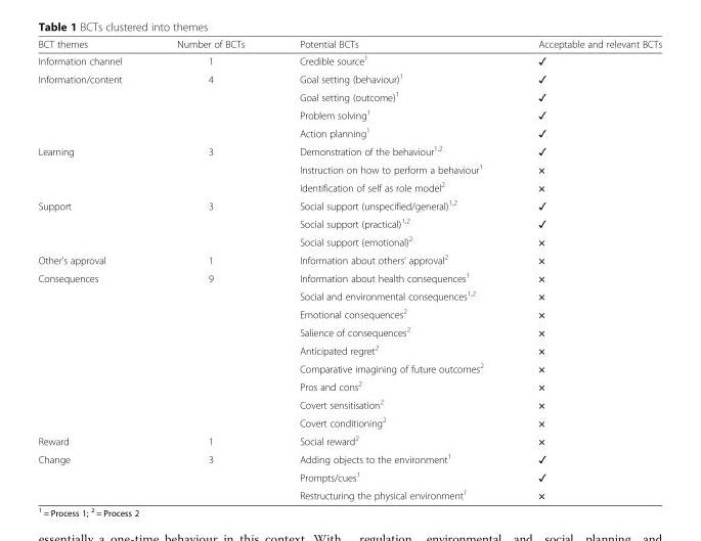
<table><thead><tr><td>BCT themes</td><td>Number of BCTs</td><td>Potential BCTs</td><td>Acceptable and relevant BCTs</td></tr></thead><tbody><tr><td>Information channel</td><td>1</td><td>Credible source<sup>1</sup></td><td>✓</td></tr><tr><td rowspan="4">Information/content</td><td rowspan="4">4</td><td>Goal setting (behaviour)<sup>1</sup></td><td>✓</td></tr><tr><td>Goal setting (outcome)<sup>1</sup></td><td>✓</td></tr><tr><td>Problem solving<sup>1</sup></td><td>✓</td></tr><tr><td>Action planning<sup>1</sup></td><td>✓</td></tr><tr><td rowspan="3">Learning</td><td rowspan="3">3</td><td>Demonstration of the behaviour<sup>1,2</sup></td><td>✓</td></tr><tr><td>Instruction on how to perform a behaviour<sup>1</sup></td><td>×</td></tr><tr><td>Identification of self as role model<sup>2</sup></td><td>×</td></tr><tr><td rowspan="3">Support</td><td rowspan="3">3</td><td>Social support (unspecified/general)<sup>1,2</sup></td><td>✓</td></tr><tr><td>Social support (practical)<sup>1,2</sup></td><td>✓</td></tr><tr><td>Social support (emotional)<sup>2</sup></td><td>×</td></tr><tr><td>Other’s approval</td><td>1</td><td>Information about others’ approval<sup>2</sup></td><td>×</td></tr><tr><td rowspan="9">Consequences</td><td rowspan="9">9</td><td>Information about health consequences<sup>1</sup></td><td>×</td></tr><tr><td>Social and environmental consequences<sup>1,2</sup></td><td>×</td></tr><tr><td>Emotional consequences<sup>2</sup></td><td>×</td></tr><tr><td>Salience of consequences<sup>2</sup></td><td>×</td></tr><tr><td>Anticipated regret<sup>2</sup></td><td>×</td></tr><tr><td>Comparative imagining of future outcomes<sup>2</sup></td><td>×</td></tr><tr><td>Pros and cons<sup>2</sup></td><td>×</td></tr><tr><td>Covert sensitisation<sup>2</sup></td><td>×</td></tr><tr><td>Covert conditioning<sup>2</sup></td><td>×</td></tr><tr><td>Reward</td><td>1</td><td>Social reward<sup>2</sup></td><td>×</td></tr><tr><td rowspan="3">Change</td><td rowspan="3">3</td><td>Adding objects to the environment<sup>1</sup></td><td>✓</td></tr><tr><td>Prompts/cues<sup>1</sup></td><td>✓</td></tr><tr><td>Restructuring the physical environment<sup>1</sup></td><td>×</td></tr></tbody></table>